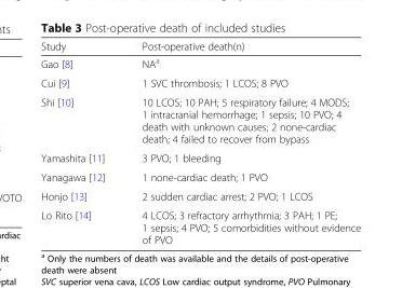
<table><thead><tr><td>Study</td><td>Post-operative death(n)</td></tr></thead><tbody><tr><td>Gao [8]</td><td>NA<sup>a</sup></td></tr><tr><td>Cui [9]</td><td>1 SVC thrombosis; 1 LCOS; 8 PVO</td></tr><tr><td>Shi [10]</td><td>10 LCOS; 10 PAH; 5 respiratory failure; 4 MODS; 1 intracranial hemorrhage; 1 sepsis; 10 PVO; 4 death with unknown causes; 2 none-cardiac death; 4 failed to recover from bypass</td></tr><tr><td>Yamashita [11]</td><td>3 PVO; 1 bleeding</td></tr><tr><td>Yanagawa [12]</td><td>1 none-cardiac death; 1 PVO</td></tr><tr><td>Honjo [13]</td><td>2 sudden cardiac arrest; 2 PVO; 1 LCOS</td></tr><tr><td>Lo Rito [14]</td><td>4 LCOS; 3 refractory arrhythmia; 3 PAH; 1 PE; 1 sepsis; 4 PVO; 5 comorbidities without evidence of PVO</td></tr></tbody></table>